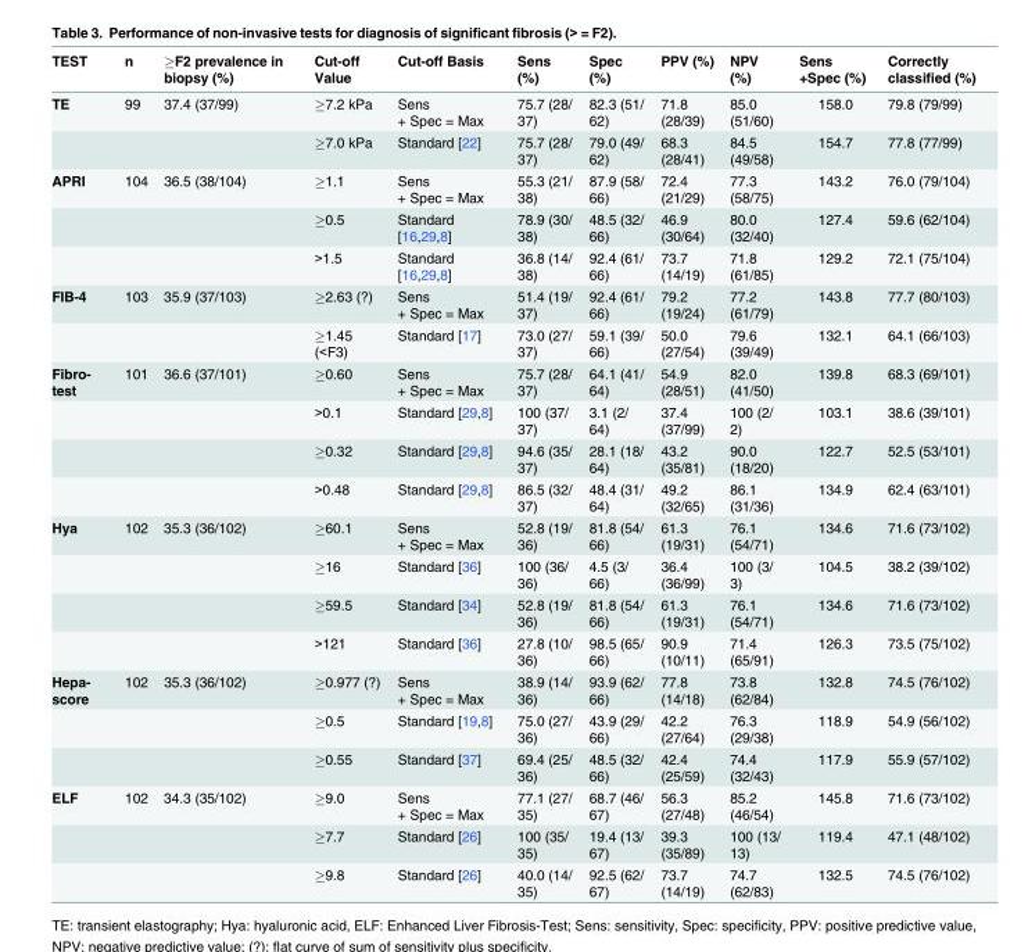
<table><thead><tr><td>TEST</td><td>n</td><td>≥F2 prevalence in biopsy (%)</td><td>Cut-off Value</td><td>Cut-off Basis</td><td>Sens (%)</td><td>Spec (%)</td><td>PPV (%)</td><td>NPV (%)</td><td>Sens +Spec (%)</td><td>Correctly classified (%)</td></tr></thead><tbody><tr><td rowspan="2">TE</td><td>99</td><td>37.4 (37/99)</td><td>≥7.2 kPa</td><td>Sens + Spec = Max</td><td>75.7 (28/ 37)</td><td>82.3 (51/ 62)</td><td>71.8 (28/39)</td><td>85.0 (51/60)</td><td>158.0</td><td>79.8 (79/99)</td></tr><tr><td></td><td></td><td>≥7.0 kPa</td><td>Standard [22]</td><td>75.7 (28/ 37)</td><td>79.0 (49/ 62)</td><td>68.3 (28/41)</td><td>84.5 (49/58)</td><td>154.7</td><td>77.8 (77/99)</td></tr><tr><td rowspan="3">APRI</td><td>104</td><td>36.5 (38/104)</td><td>≥1.1</td><td>Sens + Spec = Max</td><td>55.3 (21/ 38)</td><td>87.9 (58/ 66)</td><td>72.4 (21/29)</td><td>77.3 (58/75)</td><td>143.2</td><td>76.0 (79/104)</td></tr><tr><td></td><td></td><td>≥0.5</td><td>Standard [16,29,8]</td><td>78.9 (30/ 38)</td><td>48.5 (32/ 66)</td><td>46.9 (30/64)</td><td>80.0 (32/40)</td><td>127.4</td><td>59.6 (62/104)</td></tr><tr><td></td><td></td><td>&gt;1.5</td><td>Standard [16,29,8]</td><td>36.8 (14/ 38)</td><td>92.4 (61/ 66)</td><td>73.7 (14/19)</td><td>71.8 (61/85)</td><td>129.2</td><td>72.1 (75/104)</td></tr><tr><td rowspan="2">FIB-4</td><td>103</td><td>35.9 (37/103)</td><td>≥2.63 (?)</td><td>Sens + Spec = Max</td><td>51.4 (19/ 37)</td><td>92.4 (61/ 66)</td><td>79.2 (19/24)</td><td>77.2 (61/79)</td><td>143.8</td><td>77.7 (80/103)</td></tr><tr><td></td><td></td><td>≥1.45 (&lt;F3)</td><td>Standard [17]</td><td>73.0 (27/ 37)</td><td>59.1 (39/ 66)</td><td>50.0 (27/54)</td><td>79.6 (39/49)</td><td>132.1</td><td>64.1 (66/103)</td></tr><tr><td rowspan="4">Fibro- test</td><td>101</td><td>36.6 (37/101)</td><td>≥0.60</td><td>Sens + Spec = Max</td><td>75.7 (28/ 37)</td><td>64.1 (41/ 64)</td><td>54.9 (28/51)</td><td>82.0 (41/50)</td><td>139.8</td><td>68.3 (69/101)</td></tr><tr><td></td><td></td><td>&gt;0.1</td><td>Standard [29,8]</td><td>100 (37/ 37)</td><td>3.1 (2/ 64)</td><td>37.4 (37/99)</td><td>100 (2/ 2)</td><td>103.1</td><td>38.6 (39/101)</td></tr><tr><td></td><td></td><td>≥0.32</td><td>Standard [29,8]</td><td>94.6 (35/ 37)</td><td>28.1 (18/ 64)</td><td>43.2 (35/81)</td><td>90.0 (18/20)</td><td>122.7</td><td>52.5 (53/101)</td></tr><tr><td></td><td></td><td>&gt;0.48</td><td>Standard [29,8]</td><td>86.5 (32/ 37)</td><td>48.4 (31/ 64)</td><td>49.2 (32/65)</td><td>86.1 (31/36)</td><td>134.9</td><td>62.4 (63/101)</td></tr><tr><td rowspan="4">Hya</td><td>102</td><td>35.3 (36/102)</td><td>≥60.1</td><td>Sens + Spec = Max</td><td>52.8 (19/ 36)</td><td>81.8 (54/ 66)</td><td>61.3 (19/31)</td><td>76.1 (54/71)</td><td>134.6</td><td>71.6 (73/102)</td></tr><tr><td></td><td></td><td>≥16</td><td>Standard [36]</td><td>100 (36/ 36)</td><td>4.5 (3/ 66)</td><td>36.4 (36/99)</td><td>100 (3/ 3)</td><td>104.5</td><td>38.2 (39/102)</td></tr><tr><td></td><td></td><td>≥59.5</td><td>Standard [34]</td><td>52.8 (19/ 36)</td><td>81.8 (54/ 66)</td><td>61.3 (19/31)</td><td>76.1 (54/71)</td><td>134.6</td><td>71.6 (73/102)</td></tr><tr><td></td><td></td><td>&gt;121</td><td>Standard [36]</td><td>27.8 (10/ 36)</td><td>98.5 (65/ 66)</td><td>90.9 (10/11)</td><td>71.4 (65/91)</td><td>126.3</td><td>73.5 (75/102)</td></tr><tr><td rowspan="3">Hepa- score</td><td>102</td><td>35.3 (36/102)</td><td>≥0.977 (?)</td><td>Sens + Spec = Max</td><td>38.9 (14/ 36)</td><td>93.9 (62/ 66)</td><td>77.8 (14/18)</td><td>73.8 (62/84)</td><td>132.8</td><td>74.5 (76/102)</td></tr><tr><td></td><td></td><td>≥0.5</td><td>Standard [19,8]</td><td>75.0 (27/ 36)</td><td>43.9 (29/ 66)</td><td>42.2 (27/64)</td><td>76.3 (29/38)</td><td>118.9</td><td>54.9 (56/102)</td></tr><tr><td></td><td></td><td>≥0.55</td><td>Standard [37]</td><td>69.4 (25/ 36)</td><td>48.5 (32/ 66)</td><td>42.4 (25/59)</td><td>74.4 (32/43)</td><td>117.9</td><td>55.9 (57/102)</td></tr><tr><td rowspan="3">ELF</td><td>102</td><td>34.3 (35/102)</td><td>≥9.0</td><td>Sens + Spec = Max</td><td>77.1 (27/ 35)</td><td>68.7 (46/ 67)</td><td>56.3 (27/48)</td><td>85.2 (46/54)</td><td>145.8</td><td>71.6 (73/102)</td></tr><tr><td></td><td></td><td>≥7.7</td><td>Standard [26]</td><td>100 (35/ 35)</td><td>19.4 (13/ 67)</td><td>39.3 (35/89)</td><td>100 (13/ 13)</td><td>119.4</td><td>47.1 (48/102)</td></tr><tr><td></td><td></td><td>≥9.8</td><td>Standard [26]</td><td>40.0 (14/ 35)</td><td>92.5 (62/ 67)</td><td>73.7 (14/19)</td><td>74.7 (62/83)</td><td>132.5</td><td>74.5 (76/102)</td></tr></tbody></table>